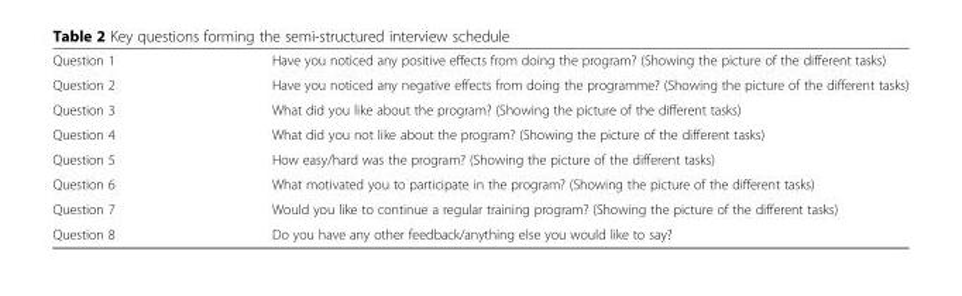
<table><tbody><tr><td>Question 1</td><td>Have you noticed any positive effects from doing the program? (Showing the picture of the different tasks)</td></tr><tr><td>Question 2</td><td>Have you noticed any negative effects from doing the programme? (Showing the picture of the different tasks)</td></tr><tr><td>Question 3</td><td>What did you like about the program? (Showing the picture of the different tasks)</td></tr><tr><td>Question 4</td><td>What did you not like about the program? (Showing the picture of the different tasks)</td></tr><tr><td>Question 5</td><td>How easy/hard was the program? (Showing the picture of the different tasks)</td></tr><tr><td>Question 6</td><td>What motivated you to participate in the program? (Showing the picture of the different tasks)</td></tr><tr><td>Question 7</td><td>Would you like to continue a regular training program? (Showing the picture of the different tasks)</td></tr><tr><td>Question 8</td><td>Do you have any other feedback/anything else you would like to say?</td></tr></tbody></table>